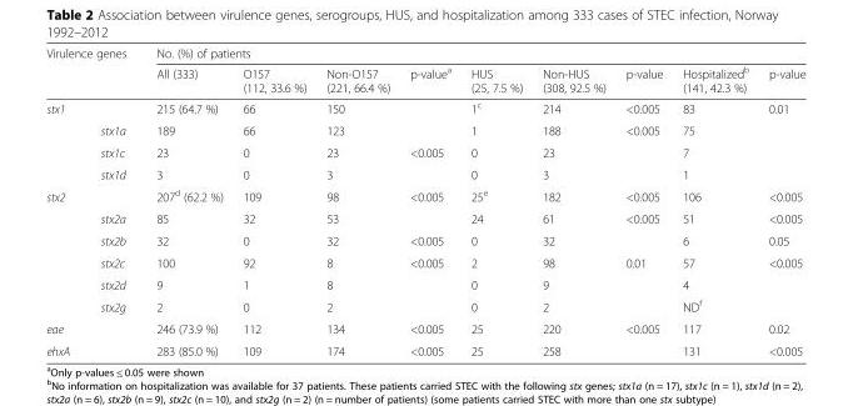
<table><thead><tr><td colspan="2">Virulence genes</td><td colspan="9">No. (%) of patients</td></tr><tr><td></td><td></td><td>All (333)</td><td>O157 (112, 33.6 %)</td><td>Non-O157 (221, 66.4 %)</td><td>p-value<sup>a</sup></td><td>HUS (25, 7.5 %)</td><td>Non-HUS (308, 92.5 %)</td><td>p-value</td><td>Hospitalized<sup>b</sup> (141, 42.3 %)</td><td>p-value</td></tr></thead><tbody><tr><td rowspan="4">stx1</td><td></td><td>215 (64.7 %)</td><td>66</td><td>150</td><td></td><td>1<sup>c</sup></td><td>214</td><td>&lt;0.005</td><td>83</td><td>0.01</td></tr><tr><td>stx1a</td><td>189</td><td>66</td><td>123</td><td></td><td>1</td><td>188</td><td>&lt;0.005</td><td>75</td><td></td></tr><tr><td>stx1c</td><td>23</td><td>0</td><td>23</td><td>&lt;0.005</td><td>0</td><td>23</td><td></td><td>7</td><td></td></tr><tr><td>stx1d</td><td>3</td><td>0</td><td>3</td><td></td><td>0</td><td>3</td><td></td><td>1</td><td></td></tr><tr><td rowspan="6">stx2</td><td></td><td>207<sup>d</sup> (62.2 %)</td><td>109</td><td>98</td><td>&lt;0.005</td><td>25<sup>e</sup></td><td>182</td><td>&lt;0.005</td><td>106</td><td>&lt;0.005</td></tr><tr><td>stx2a</td><td>85</td><td>32</td><td>53</td><td></td><td>24</td><td>61</td><td>&lt;0.005</td><td>51</td><td>&lt;0.005</td></tr><tr><td>stx2b</td><td>32</td><td>0</td><td>32</td><td>&lt;0.005</td><td>0</td><td>32</td><td></td><td>6</td><td>0.05</td></tr><tr><td>stx2c</td><td>100</td><td>92</td><td>8</td><td>&lt;0.005</td><td>2</td><td>98</td><td>0.01</td><td>57</td><td>&lt;0.005</td></tr><tr><td>stx2d</td><td>9</td><td>1</td><td>8</td><td></td><td>0</td><td>9</td><td></td><td>4</td><td></td></tr><tr><td>stx2g</td><td>2</td><td>0</td><td>2</td><td></td><td>0</td><td>2</td><td></td><td>ND<sup>f</sup></td><td></td></tr><tr><td>eae</td><td></td><td>246 (73.9 %)</td><td>112</td><td>134</td><td>&lt;0.005</td><td>25</td><td>220</td><td>&lt;0.005</td><td>117</td><td>0.02</td></tr><tr><td>ehxA</td><td></td><td>283 (85.0 %)</td><td>109</td><td>174</td><td>&lt;0.005</td><td>25</td><td>258</td><td></td><td>131</td><td>&lt;0.005</td></tr></tbody></table>